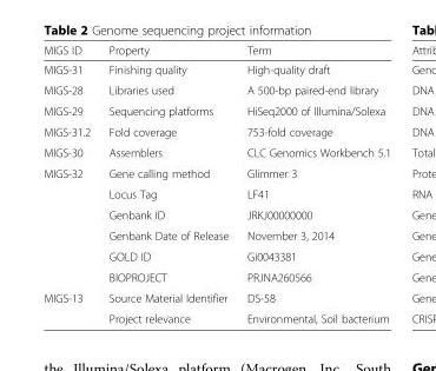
<table><thead><tr><td>MIGS ID</td><td>Property</td><td>Term</td></tr></thead><tbody><tr><td>MIGS-31</td><td>Finishing quality</td><td>High-quality draft</td></tr><tr><td>MIGS-28</td><td>Libraries used</td><td>A 500-bp paired-end library</td></tr><tr><td>MIGS-29</td><td>Sequencing platforms</td><td>HiSeq2000 of Illumina/Solexa</td></tr><tr><td>MIGS-31.2</td><td>Fold coverage</td><td>753-fold coverage</td></tr><tr><td>MIGS-30</td><td>Assemblers</td><td>CLC Genomics Workbench 5.1</td></tr><tr><td rowspan="6">MIGS-32</td><td>Gene calling method</td><td>Glimmer 3</td></tr><tr><td>Locus Tag</td><td>LF41</td></tr><tr><td>Genbank ID</td><td>JRKJ00000000</td></tr><tr><td>Genbank Date of Release</td><td>November 3, 2014</td></tr><tr><td>GOLD ID</td><td>Gi0043381</td></tr><tr><td>BIOPROJECT</td><td>PRJNA260566</td></tr><tr><td rowspan="2">MIGS-13</td><td>Source Material Identifier</td><td>DS-58</td></tr><tr><td>Project relevance</td><td>Environmental, Soil bacterium</td></tr></tbody></table>